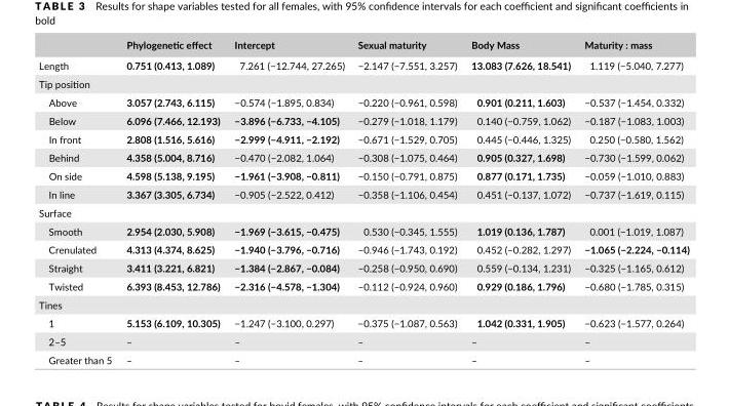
<table><thead><tr><td></td><td>Phylogenetic effect</td><td>Intercept</td><td>Sexual maturity</td><td>Body Mass</td><td>Maturity : mass</td></tr></thead><tbody><tr><td>Length</td><td>0.751 (0.413, 1.089)</td><td>7.261 (−12.744, 27.265)</td><td>−2.147 (−7.551, 3.257)</td><td>13.083 (7.626, 18.541)</td><td>1.119 (−5.040, 7.277)</td></tr><tr><td colspan="6">Tip position</td></tr><tr><td>Above</td><td>3.057 (2.743, 6.115)</td><td>−0.574 (−1.895, 0.834)</td><td>−0.220 (−0.961, 0.598)</td><td>0.901 (0.211, 1.603)</td><td>−0.537 (−1.454, 0.332)</td></tr><tr><td>Below</td><td>6.096 (7.466, 12.193)</td><td>−3.896 (−6.733, −4.105)</td><td>−0.279 (−1.018, 1.179)</td><td>0.140 (−0.759, 1.062)</td><td>−0.187 (−1.083, 1.003)</td></tr><tr><td>In front</td><td>2.808 (1.516, 5.616)</td><td>−2.999 (−4.911, −2.192)</td><td>−0.671 (−1.529, 0.705)</td><td>0.445 (−0.446, 1.325)</td><td>0.250 (−0.580, 1.562)</td></tr><tr><td>Behind</td><td>4.358 (5.004, 8.716)</td><td>−0.470 (−2.082, 1.064)</td><td>−0.308 (−1.075, 0.464)</td><td>0.905 (0.327, 1.698)</td><td>−0.730 (−1.599, 0.062)</td></tr><tr><td>On side</td><td>4.598 (5.138, 9.195)</td><td>−1.961 (−3.908, −0.811)</td><td>−0.150 (−0.791, 0.875)</td><td>0.877 (0.171, 1.735)</td><td>−0.059 (−1.010, 0.883)</td></tr><tr><td>In line</td><td>3.367 (3.305, 6.734)</td><td>−0.905 (−2.522, 0.412)</td><td>−0.358 (−1.106, 0.454)</td><td>0.451 (−0.137, 1.072)</td><td>−0.737 (−1.619, 0.115)</td></tr><tr><td colspan="6">Surface</td></tr><tr><td>Smooth</td><td>2.954 (2.030, 5.908)</td><td>−1.969 (−3.615, −0.475)</td><td>0.530 (−0.345, 1.555)</td><td>1.019 (0.136, 1.787)</td><td>0.001 (−1.019, 1.087)</td></tr><tr><td>Crenulated</td><td>4.313 (4.374, 8.625)</td><td>−1.940 (−3.796, −0.716)</td><td>−0.946 (−1.743, 0.192)</td><td>0.452 (−0.282, 1.297)</td><td>−1.065 (−2.224, −0.114)</td></tr><tr><td>Straight</td><td>3.411 (3.221, 6.821)</td><td>−1.384 (−2.867, −0.084)</td><td>−0.258 (−0.950, 0.690)</td><td>0.559 (−0.134, 1.231)</td><td>−0.325 (−1.165, 0.612)</td></tr><tr><td>Twisted</td><td>6.393 (8.453, 12.786)</td><td>−2.316 (−4.578, −1.304)</td><td>−0.112 (−0.924, 0.960)</td><td>0.929 (0.186, 1.796)</td><td>−0.680 (−1.785, 0.315)</td></tr><tr><td colspan="6">Tines</td></tr><tr><td>1</td><td>5.153 (6.109, 10.305)</td><td>−1.247 (−3.100, 0.297)</td><td>−0.375 (−1.087, 0.563)</td><td>1.042 (0.331, 1.905)</td><td>−0.623 (−1.577, 0.264)</td></tr><tr><td>2–5</td><td>–</td><td>–</td><td>–</td><td>–</td><td>–</td></tr><tr><td>Greater than 5</td><td>–</td><td>–</td><td>–</td><td>–</td><td>–</td></tr></tbody></table>